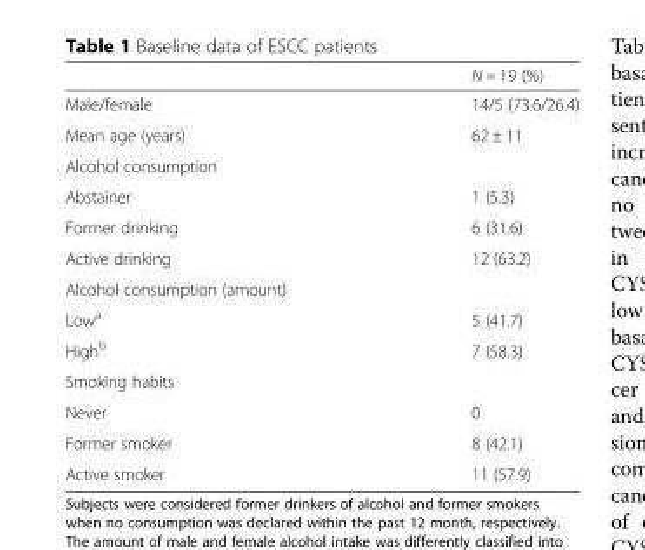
<table><thead><tr><td></td><td>N = 19 (%)</td></tr></thead><tbody><tr><td>Male/female</td><td>14/5 (73.6/26.4)</td></tr><tr><td>Mean age (years)</td><td>62 ± 11</td></tr><tr><td colspan="2">Alcohol consumption</td></tr><tr><td>Abstainer</td><td>1 (5.3)</td></tr><tr><td>Former drinking</td><td>6 (31.6)</td></tr><tr><td>Active drinking</td><td>12 (63.2)</td></tr><tr><td colspan="2">Alcohol consumption (amount)</td></tr><tr><td>Low<sup>a</sup></td><td>5 (41.7)</td></tr><tr><td>High<sup>b</sup></td><td>7 (58.3)</td></tr><tr><td colspan="2">Smoking habits</td></tr><tr><td>Never</td><td>0</td></tr><tr><td>Former smoker</td><td>8 (42.1)</td></tr><tr><td>Active smoker</td><td>11 (57.9)</td></tr></tbody></table>